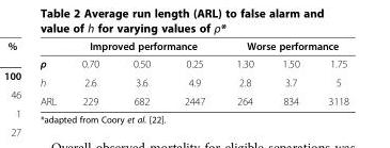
<table><thead><tr><td rowspan="2">ρ</td><td colspan="3">Improved performance</td><td colspan="3">Worse performance</td></tr><tr><td>0.70</td><td>0.50</td><td>0.25</td><td>1.30</td><td>1.50</td><td>1.75</td></tr></thead><tbody><tr><td>h</td><td>2.6</td><td>3.6</td><td>4.9</td><td>2.8</td><td>3.7</td><td>5</td></tr><tr><td>ARL</td><td>229</td><td>682</td><td>2447</td><td>264</td><td>834</td><td>3118</td></tr></tbody></table>